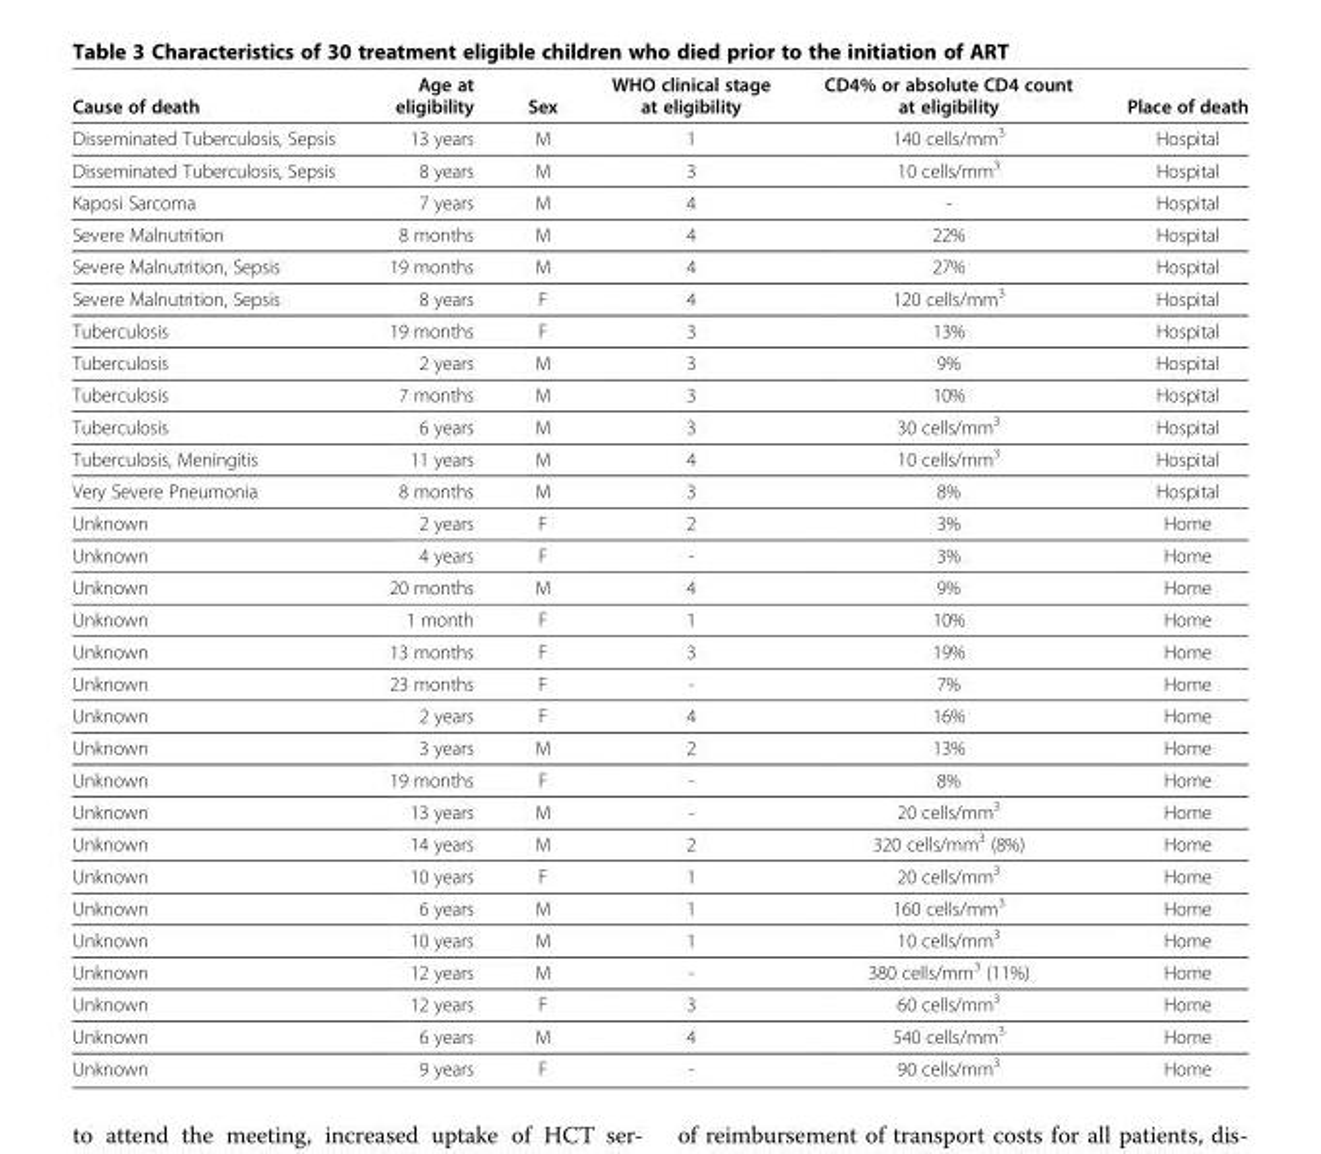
<table><thead><tr><td>Cause of death</td><td>Age at eligibility</td><td>Sex</td><td>WHO clinical stage at eligibility</td><td>CD4% or absolute CD4 count at eligibility</td><td>Place of death</td></tr></thead><tbody><tr><td>Disseminated Tuberculosis, Sepsis</td><td>13 years</td><td>M</td><td>1</td><td>140 cells/mm<sup>3</sup></td><td>Hospital</td></tr><tr><td>Disseminated Tuberculosis, Sepsis</td><td>8 years</td><td>M</td><td>3</td><td>10 cells/mm<sup>3</sup></td><td>Hospital</td></tr><tr><td>Kaposi Sarcoma</td><td>7 years</td><td>M</td><td>4</td><td>-</td><td>Hospital</td></tr><tr><td>Severe Malnutrition</td><td>8 months</td><td>M</td><td>4</td><td>22%</td><td>Hospital</td></tr><tr><td>Severe Malnutrition, Sepsis</td><td>19 months</td><td>M</td><td>4</td><td>27%</td><td>Hospital</td></tr><tr><td>Severe Malnutrition, Sepsis</td><td>8 years</td><td>F</td><td>4</td><td>120 cells/mm<sup>3</sup></td><td>Hospital</td></tr><tr><td>Tuberculosis</td><td>19 months</td><td>F</td><td>3</td><td>13%</td><td>Hospital</td></tr><tr><td>Tuberculosis</td><td>2 years</td><td>M</td><td>3</td><td>9%</td><td>Hospital</td></tr><tr><td>Tuberculosis</td><td>7 months</td><td>M</td><td>3</td><td>10%</td><td>Hospital</td></tr><tr><td>Tuberculosis</td><td>6 years</td><td>M</td><td>3</td><td>30 cells/mm<sup>3</sup></td><td>Hospital</td></tr><tr><td>Tuberculosis, Meningitis</td><td>11 years</td><td>M</td><td>4</td><td>10 cells/mm<sup>3</sup></td><td>Hospital</td></tr><tr><td>Very Severe Pneumonia</td><td>8 months</td><td>M</td><td>3</td><td>8%</td><td>Hospital</td></tr><tr><td>Unknown</td><td>2 years</td><td>F</td><td>2</td><td>3%</td><td>Home</td></tr><tr><td>Unknown</td><td>4 years</td><td>F</td><td>-</td><td>3%</td><td>Home</td></tr><tr><td>Unknown</td><td>20 months</td><td>M</td><td>4</td><td>9%</td><td>Home</td></tr><tr><td>Unknown</td><td>1 month</td><td>F</td><td>1</td><td>10%</td><td>Home</td></tr><tr><td>Unknown</td><td>13 months</td><td>F</td><td>3</td><td>19%</td><td>Home</td></tr><tr><td>Unknown</td><td>23 months</td><td>F</td><td>-</td><td>7%</td><td>Home</td></tr><tr><td>Unknown</td><td>2 years</td><td>F</td><td>4</td><td>16%</td><td>Home</td></tr><tr><td>Unknown</td><td>3 years</td><td>M</td><td>2</td><td>13%</td><td>Home</td></tr><tr><td>Unknown</td><td>19 months</td><td>F</td><td>-</td><td>8%</td><td>Home</td></tr><tr><td>Unknown</td><td>13 years</td><td>M</td><td>-</td><td>20 cells/mm<sup>3</sup></td><td>Home</td></tr><tr><td>Unknown</td><td>14 years</td><td>M</td><td>2</td><td>320 cells/mm<sup>3</sup> (8%)</td><td>Home</td></tr><tr><td>Unknown</td><td>10 years</td><td>F</td><td>1</td><td>20 cells/mm<sup>3</sup></td><td>Home</td></tr><tr><td>Unknown</td><td>6 years</td><td>M</td><td>1</td><td>160 cells/mm<sup>3</sup></td><td>Home</td></tr><tr><td>Unknown</td><td>10 years</td><td>M</td><td>1</td><td>10 cells/mm<sup>3</sup></td><td>Home</td></tr><tr><td>Unknown</td><td>12 years</td><td>M</td><td>-</td><td>380 cells/mm<sup>3</sup> (11%)</td><td>Home</td></tr><tr><td>Unknown</td><td>12 years</td><td>F</td><td>3</td><td>60 cells/mm<sup>3</sup></td><td>Home</td></tr><tr><td>Unknown</td><td>6 years</td><td>M</td><td>4</td><td>540 cells/mm<sup>3</sup></td><td>Home</td></tr><tr><td>Unknown</td><td>9 years</td><td>F</td><td>-</td><td>90 cells/mm<sup>3</sup></td><td>Home</td></tr></tbody></table>